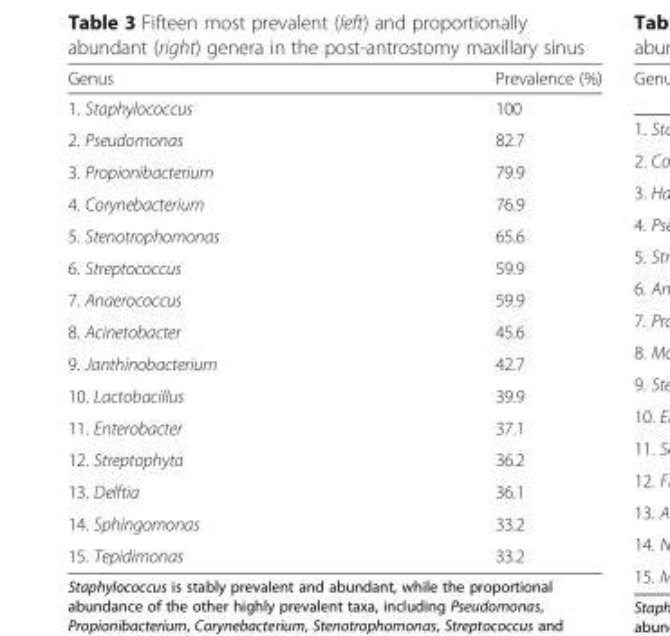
<table><thead><tr><td>Genus</td><td>Prevalence (%)</td></tr></thead><tbody><tr><td>1. Staphylococcus</td><td>100</td></tr><tr><td>2. Pseudomonas</td><td>82.7</td></tr><tr><td>3. Propionibacterium</td><td>79.9</td></tr><tr><td>4. Corynebacterium</td><td>76.9</td></tr><tr><td>5. Stenotrophomonas</td><td>65.6</td></tr><tr><td>6. Streptococcus</td><td>59.9</td></tr><tr><td>7. Anaerococcus</td><td>59.9</td></tr><tr><td>8. Acinetobacter</td><td>45.6</td></tr><tr><td>9. Janthinobacterium</td><td>42.7</td></tr><tr><td>10. Lactobacillus</td><td>39.9</td></tr><tr><td>11. Enterobacter</td><td>37.1</td></tr><tr><td>12. Streptophyta</td><td>36.2</td></tr><tr><td>13. Delftia</td><td>36.1</td></tr><tr><td>14. Sphingomonas</td><td>33.2</td></tr><tr><td>15. Tepidimonas</td><td>33.2</td></tr></tbody></table>